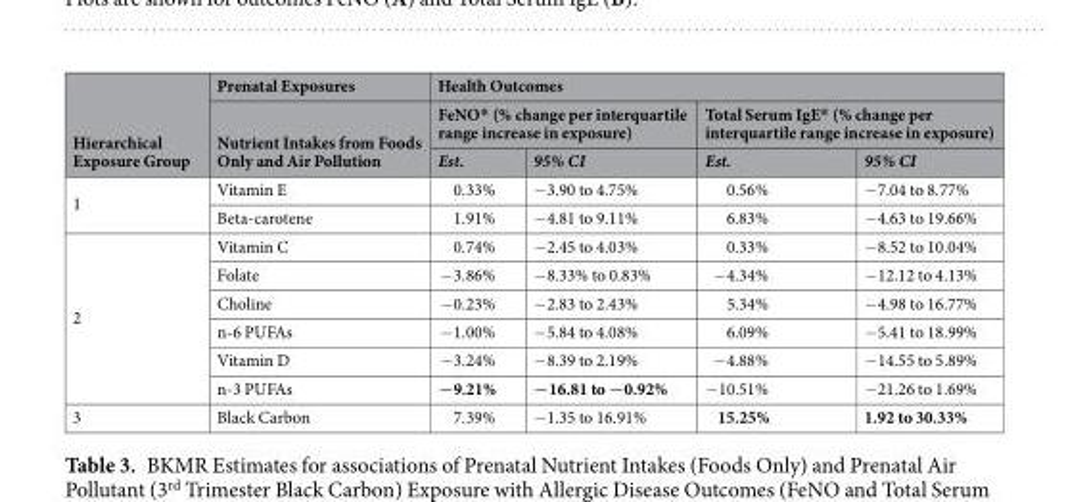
<table><thead><tr><td rowspan="3">Hierarchical Exposure Group</td><td rowspan="3">Prenatal Exposures Nutrient Intakes from Foods Only and Air Pollution</td><td colspan="4">Health Outcomes</td></tr><tr><td colspan="2">FeNO* (% change per interquartile range increase in exposure)</td><td colspan="2">Total Serum IgE* (% change per interquartile range increase in exposure)</td></tr><tr><td>Est.</td><td>95% CI</td><td>Est.</td><td>95% CI</td></tr></thead><tbody><tr><td rowspan="2">1</td><td>Vitamin E</td><td>0.33%</td><td>−3.90 to 4.75%</td><td>0.56%</td><td>−7.04 to 8.77%</td></tr><tr><td>Beta-carotene</td><td>1.91%</td><td>−4.81 to 9.11%</td><td>6.83%</td><td>−4.63 to 19.66%</td></tr><tr><td rowspan="6">2</td><td>Vitamin C</td><td>0.74%</td><td>−2.45 to 4.03%</td><td>0.33%</td><td>−8.52 to 10.04%</td></tr><tr><td>Folate</td><td>−3.86%</td><td>−8.33% to 0.83%</td><td>−4.34%</td><td>−12.12 to 4.13%</td></tr><tr><td>Choline</td><td>−0.23%</td><td>−2.83 to 2.43%</td><td>5.34%</td><td>−4.98 to 16.77%</td></tr><tr><td>n-6 PUFAs</td><td>−1.00%</td><td>−5.84 to 4.08%</td><td>6.09%</td><td>−5.41 to 18.99%</td></tr><tr><td>Vitamin D</td><td>−3.24%</td><td>−8.39 to 2.19%</td><td>−4.88%</td><td>−14.55 to 5.89%</td></tr><tr><td>n-3 PUFAs</td><td>−9.21%</td><td>−16.81 to −0.92%</td><td>−10.51%</td><td>−21.26 to 1.69%</td></tr><tr><td>3</td><td>Black Carbon</td><td>7.39%</td><td>−1.35 to 16.91%</td><td>15.25%</td><td>1.92 to 30.33%</td></tr></tbody></table>